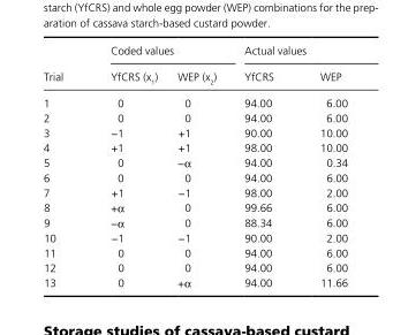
<table><thead><tr><td rowspan="2">Trial</td><td colspan="2">Coded values</td><td colspan="2">Actual values</td></tr><tr><td>YfCRS (x<sub>1</sub>)</td><td>WEP (x<sub>2</sub>)</td><td>YfCRS</td><td>WEP</td></tr></thead><tbody><tr><td>1</td><td>0</td><td>0</td><td>94.00</td><td>6.00</td></tr><tr><td>2</td><td>0</td><td>0</td><td>94.00</td><td>6.00</td></tr><tr><td>3</td><td>−1</td><td>+1</td><td>90.00</td><td>10.00</td></tr><tr><td>4</td><td>+1</td><td>+1</td><td>98.00</td><td>10.00</td></tr><tr><td>5</td><td>0</td><td>−α</td><td>94.00</td><td>0.34</td></tr><tr><td>6</td><td>0</td><td>0</td><td>94.00</td><td>6.00</td></tr><tr><td>7</td><td>+1</td><td>−1</td><td>98.00</td><td>2.00</td></tr><tr><td>8</td><td>+α</td><td>0</td><td>99.66</td><td>6.00</td></tr><tr><td>9</td><td>−α</td><td>0</td><td>88.34</td><td>6.00</td></tr><tr><td>10</td><td>−1</td><td>−1</td><td>90.00</td><td>2.00</td></tr><tr><td>11</td><td>0</td><td>0</td><td>94.00</td><td>6.00</td></tr><tr><td>12</td><td>0</td><td>0</td><td>94.00</td><td>6.00</td></tr><tr><td>13</td><td>0</td><td>+α</td><td>94.00</td><td>11.66</td></tr></tbody></table>